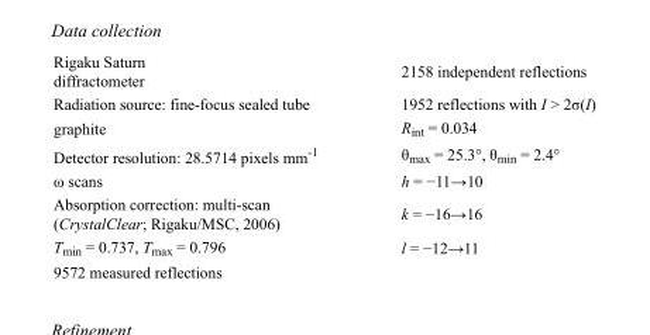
<table><tbody><tr><td>Rigaku Saturn diffractometer</td><td>2158 independent reflections</td></tr><tr><td>Radiation source: fine-focus sealed tube</td><td>1952 reflections with I &gt; 2σ(I)</td></tr><tr><td>graphite</td><td>R<sub>int</sub> = 0.034</td></tr><tr><td>Detector resolution: 28.5714 pixels mm<sup>-1</sup></td><td>θ<sub>max</sub> = 25.3°, θ<sub>min</sub> = 2.4°</td></tr><tr><td>ω scans</td><td>h = −11→10</td></tr><tr><td>Absorption correction: multi-scan (CrystalClear; Rigaku/MSC, 2006)</td><td>k = −16→16</td></tr><tr><td>T<sub>min</sub> = 0.737, T<sub>max</sub> = 0.796</td><td>l = −12→11</td></tr><tr><td>9572 measured reflections</td><td></td></tr></tbody></table>